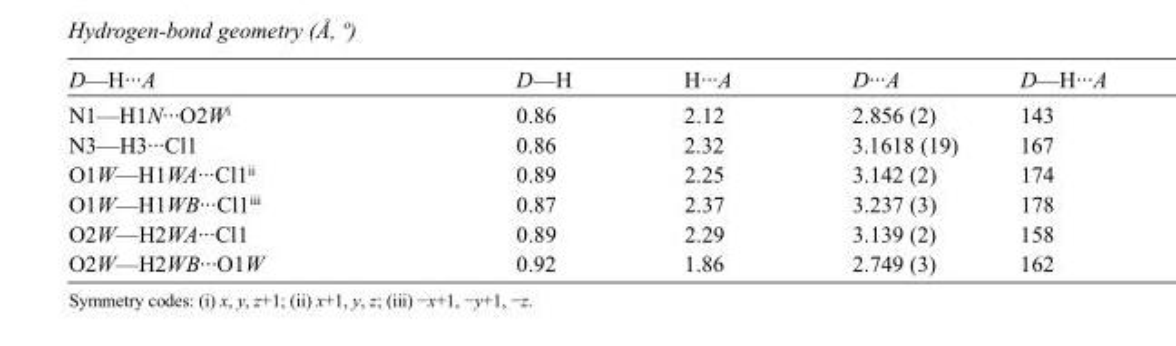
<table><tbody><tr><td>D—H···A</td><td>D—H</td><td>H···A</td><td>D···A</td><td>D—H···A</td></tr><tr><td>N1—H1N···O2W<sup>i</sup></td><td>0.86</td><td>2.12</td><td>2.856 (2)</td><td>143</td></tr><tr><td>N3—H3···Cl1</td><td>0.86</td><td>2.32</td><td>3.1618 (19)</td><td>167</td></tr><tr><td>O1W—H1WA···Cl1<sup>ii</sup></td><td>0.89</td><td>2.25</td><td>3.142 (2)</td><td>174</td></tr><tr><td>O1W—H1WB···Cl1<sup>iii</sup></td><td>0.87</td><td>2.37</td><td>3.237 (3)</td><td>178</td></tr><tr><td>O2W—H2WA···Cl1</td><td>0.89</td><td>2.29</td><td>3.139 (2)</td><td>158</td></tr><tr><td>O2W—H2WB···O1W</td><td>0.92</td><td>1.86</td><td>2.749 (3)</td><td>162</td></tr></tbody></table>